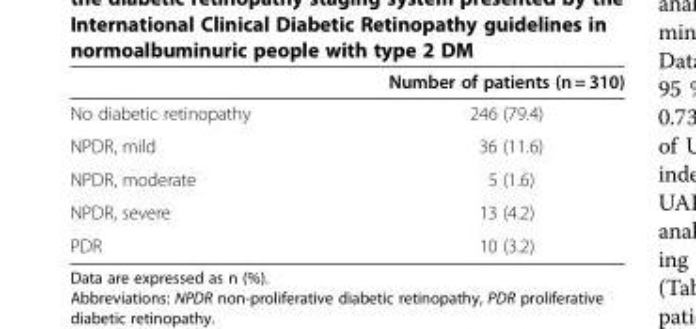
<table><thead><tr><td></td><td>Number of patients (n = 310)</td></tr></thead><tbody><tr><td>No diabetic retinopathy</td><td>246 (79.4)</td></tr><tr><td>NPDR, mild</td><td>36 (11.6)</td></tr><tr><td>NPDR, moderate</td><td>5 (1.6)</td></tr><tr><td>NPDR, severe</td><td>13 (4.2)</td></tr><tr><td>PDR</td><td>10 (3.2)</td></tr></tbody></table>